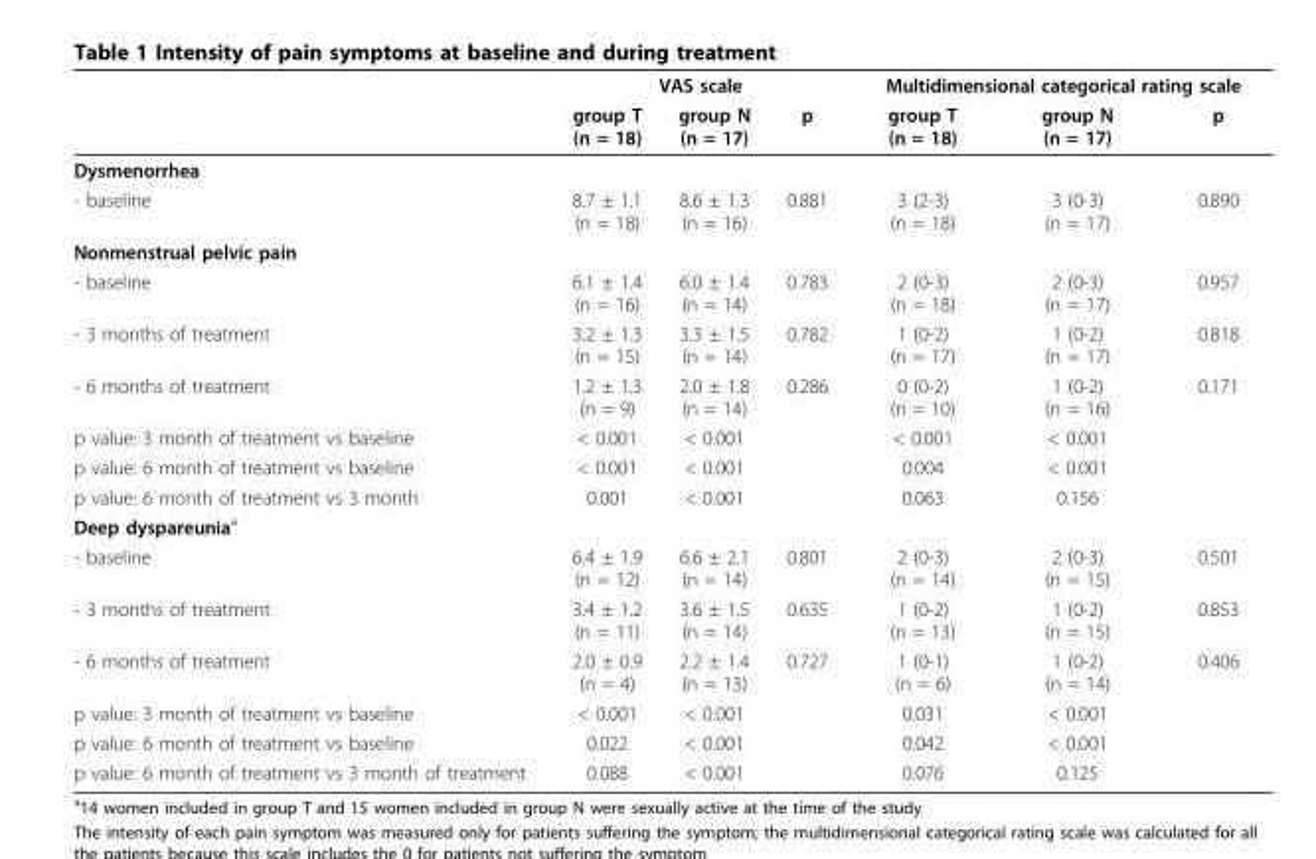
<table><thead><tr><td rowspan="2"></td><td colspan="3">VAS scale</td><td colspan="3">Multidimensional categorical rating scale</td></tr><tr><td>group T (n = 18)</td><td>group N (n = 17)</td><td>p</td><td>group T (n = 18)</td><td>group N (n = 17)</td><td>p</td></tr></thead><tbody><tr><td colspan="7">Dysmenorrhea</td></tr><tr><td>- baseline</td><td>8.7 ± 1.1 (n = 18)</td><td>8.6 ± 1.3 (n = 16)</td><td>0.881</td><td>3 (2-3) (n = 18)</td><td>3 (0-3) (n = 17)</td><td>0.890</td></tr><tr><td colspan="7">Nonmenstrual pelvic pain</td></tr><tr><td>- baseline</td><td>6.1 ± 1.4 (n = 16)</td><td>6.0 ± 1.4 (n = 14)</td><td>0.783</td><td>2 (0-3) (n = 18)</td><td>2 (0-3) (n = 17)</td><td>0.957</td></tr><tr><td>- 3 months of treatment</td><td>3.2 ± 1.3 (n = 15)</td><td>3.3 ± 1.5 (n = 14)</td><td>0.782</td><td>1 (0-2) (n = 17)</td><td>1 (0-2) (n = 17)</td><td>0.818</td></tr><tr><td>- 6 months of treatment</td><td>1.2 ± 1.3 (n = 9)</td><td>2.0 ± 1.8 (n = 14)</td><td>0.286</td><td>0 (0-2) (n = 10)</td><td>1 (0-2) (n = 16)</td><td>0.171</td></tr><tr><td>p value: 3 month of treatment vs baseline</td><td>&lt; 0.001</td><td>&lt; 0.001</td><td></td><td>&lt; 0.001</td><td>&lt; 0.001</td><td></td></tr><tr><td>p value: 6 month of treatment vs baseline</td><td>&lt; 0.001</td><td>&lt; 0.001</td><td></td><td>0.004</td><td>&lt; 0.001</td><td></td></tr><tr><td>p value: 6 month of treatment vs 3 month</td><td>0.001</td><td>&lt; 0.001</td><td></td><td>0.063</td><td>0.156</td><td></td></tr><tr><td colspan="7">Deep dyspareunia<sup>a</sup></td></tr><tr><td>- baseline</td><td>6.4 ± 1.9 (n = 12)</td><td>6.6 ± 2.1 (n = 14)</td><td>0.801</td><td>2 (0-3) (n = 14)</td><td>2 (0-3) (n = 15)</td><td>0.501</td></tr><tr><td>- 3 months of treatment</td><td>3.4 ± 1.2 (n = 11)</td><td>3.6 ± 1.5 (n = 14)</td><td>0.635</td><td>1 (0-2) (n = 13)</td><td>1 (0-2) (n = 15)</td><td>0.853</td></tr><tr><td>- 6 months of treatment</td><td>2.0 ± 0.9 (n = 4)</td><td>2.2 ± 1.4 (n = 13)</td><td>0.727</td><td>1 (0-1) (n = 6)</td><td>1 (0-2) (n = 14)</td><td>0.406</td></tr><tr><td>p value: 3 month of treatment vs baseline</td><td>&lt; 0.001</td><td>&lt; 0.001</td><td></td><td>0.031</td><td>&lt; 0.001</td><td></td></tr><tr><td>p value: 6 month of treatment vs baseline</td><td>0.022</td><td>&lt; 0.001</td><td></td><td>0.042</td><td>&lt; 0.001</td><td></td></tr><tr><td>p value: 6 month of treatment vs 3 month of treatment</td><td>0.088</td><td>&lt; 0.001</td><td></td><td>0.076</td><td>0.125</td><td></td></tr></tbody></table>